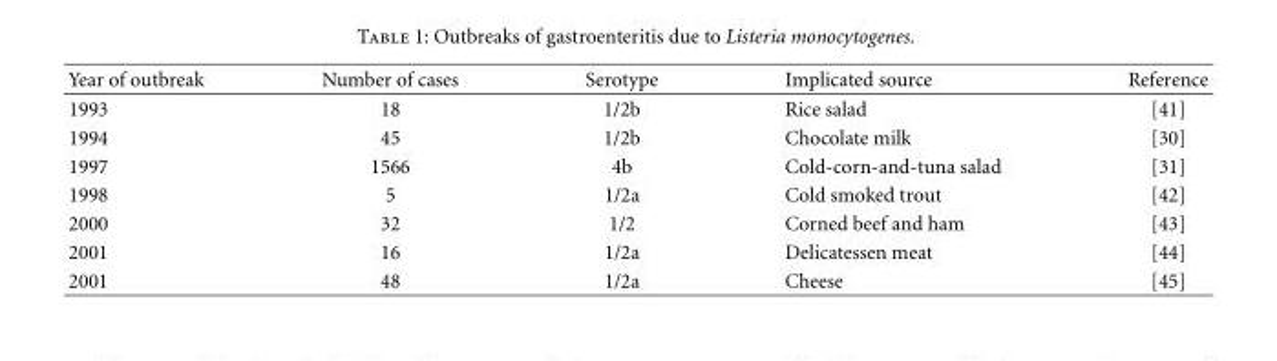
<table><thead><tr><td>Year of outbreak</td><td>Number of cases</td><td>Serotype</td><td>Implicated source</td><td>Reference</td></tr></thead><tbody><tr><td>1993</td><td>18</td><td>1/2b</td><td>Rice salad</td><td>[41]</td></tr><tr><td>1994</td><td>45</td><td>1/2b</td><td>Chocolate milk</td><td>[30]</td></tr><tr><td>1997</td><td>1566</td><td>4b</td><td>Cold-corn-and-tuna salad</td><td>[31]</td></tr><tr><td>1998</td><td>5</td><td>1/2a</td><td>Cold smoked trout</td><td>[42]</td></tr><tr><td>2000</td><td>32</td><td>1/2</td><td>Corned beef and ham</td><td>[43]</td></tr><tr><td>2001</td><td>16</td><td>1/2a</td><td>Delicatessen meat</td><td>[44]</td></tr><tr><td>2001</td><td>48</td><td>1/2a</td><td>Cheese</td><td>[45]</td></tr></tbody></table>